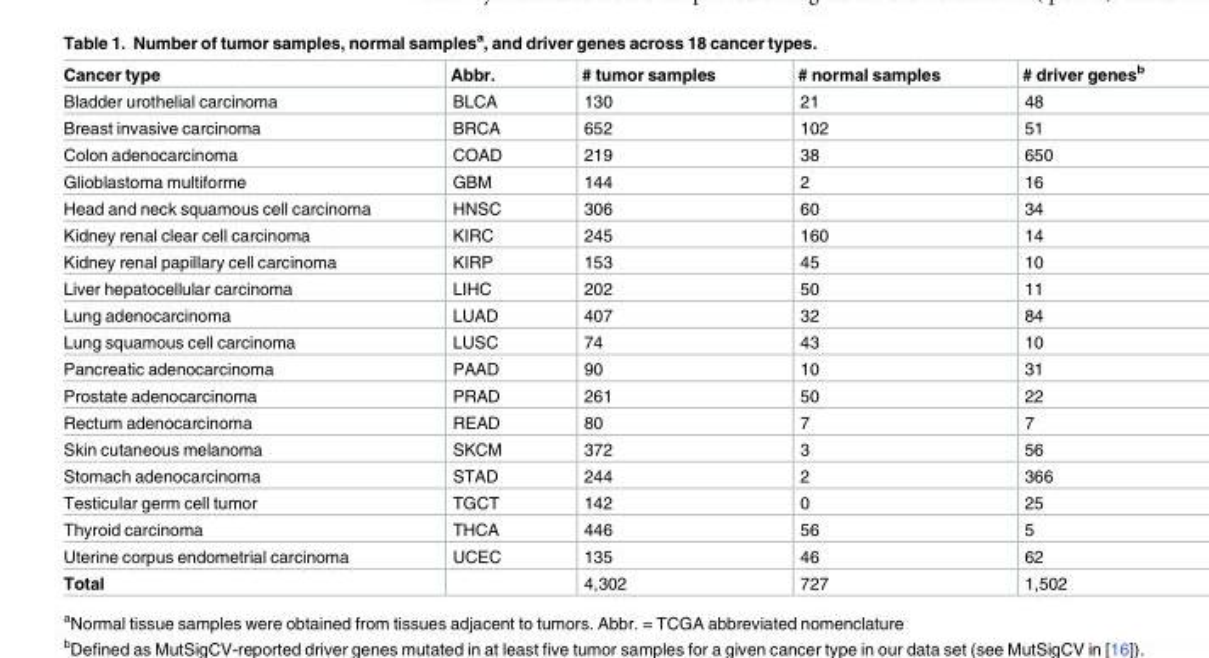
<table><thead><tr><td>Cancer type</td><td>Abbr.</td><td># tumor samples</td><td># normal samples</td><td># driver genes<sup>b</sup></td></tr></thead><tbody><tr><td>Bladder urothelial carcinoma</td><td>BLCA</td><td>130</td><td>21</td><td>48</td></tr><tr><td>Breast invasive carcinoma</td><td>BRCA</td><td>652</td><td>102</td><td>51</td></tr><tr><td>Colon adenocarcinoma</td><td>COAD</td><td>219</td><td>38</td><td>650</td></tr><tr><td>Glioblastoma multiforme</td><td>GBM</td><td>144</td><td>2</td><td>16</td></tr><tr><td>Head and neck squamous cell carcinoma</td><td>HNSC</td><td>306</td><td>60</td><td>34</td></tr><tr><td>Kidney renal clear cell carcinoma</td><td>KIRC</td><td>245</td><td>160</td><td>14</td></tr><tr><td>Kidney renal papillary cell carcinoma</td><td>KIRP</td><td>153</td><td>45</td><td>10</td></tr><tr><td>Liver hepatocellular carcinoma</td><td>LIHC</td><td>202</td><td>50</td><td>11</td></tr><tr><td>Lung adenocarcinoma</td><td>LUAD</td><td>407</td><td>32</td><td>84</td></tr><tr><td>Lung squamous cell carcinoma</td><td>LUSC</td><td>74</td><td>43</td><td>10</td></tr><tr><td>Pancreatic adenocarcinoma</td><td>PAAD</td><td>90</td><td>10</td><td>31</td></tr><tr><td>Prostate adenocarcinoma</td><td>PRAD</td><td>261</td><td>50</td><td>22</td></tr><tr><td>Rectum adenocarcinoma</td><td>READ</td><td>80</td><td>7</td><td>7</td></tr><tr><td>Skin cutaneous melanoma</td><td>SKCM</td><td>372</td><td>3</td><td>56</td></tr><tr><td>Stomach adenocarcinoma</td><td>STAD</td><td>244</td><td>2</td><td>366</td></tr><tr><td>Testicular germ cell tumor</td><td>TGCT</td><td>142</td><td>0</td><td>25</td></tr><tr><td>Thyroid carcinoma</td><td>THCA</td><td>446</td><td>56</td><td>5</td></tr><tr><td>Uterine corpus endometrial carcinoma</td><td>UCEC</td><td>135</td><td>46</td><td>62</td></tr><tr><td>Total</td><td></td><td>4,302</td><td>727</td><td>1,502</td></tr></tbody></table>